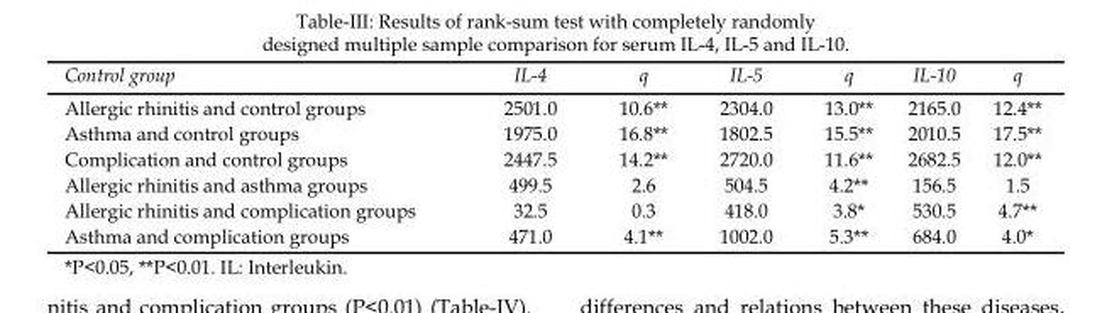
<table><thead><tr><td>Control group</td><td>IL-4</td><td>q</td><td>IL-5</td><td>q</td><td>IL-10</td><td>q</td></tr></thead><tbody><tr><td>Allergic rhinitis and control groups</td><td>2501.0</td><td>10.6**</td><td>2304.0</td><td>13.0**</td><td>2165.0</td><td>12.4**</td></tr><tr><td>Asthma and control groups</td><td>1975.0</td><td>16.8**</td><td>1802.5</td><td>15.5**</td><td>2010.5</td><td>17.5**</td></tr><tr><td>Complication and control groups</td><td>2447.5</td><td>14.2**</td><td>2720.0</td><td>11.6**</td><td>2682.5</td><td>12.0**</td></tr><tr><td>Allergic rhinitis and asthma groups</td><td>499.5</td><td>2.6</td><td>504.5</td><td>4.2**</td><td>156.5</td><td>1.5</td></tr><tr><td>Allergic rhinitis and complication groups</td><td>32.5</td><td>0.3</td><td>418.0</td><td>3.8*</td><td>530.5</td><td>4.7**</td></tr><tr><td>Asthma and complication groups</td><td>471.0</td><td>4.1**</td><td>1002.0</td><td>5.3**</td><td>684.0</td><td>4.0*</td></tr></tbody></table>